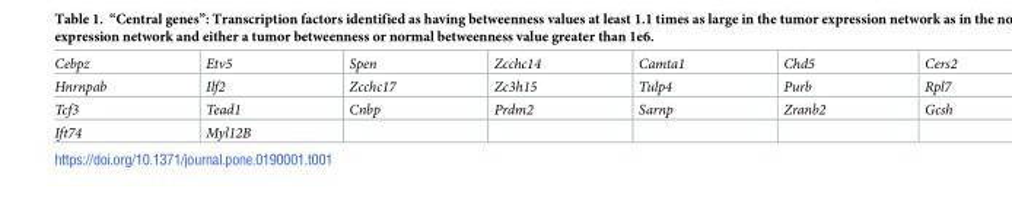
<table><tbody><tr><td>Cebpz</td><td>Etv5</td><td>Spen</td><td>Zcchc14</td><td>Camta1</td><td>Chd5</td><td>Cers2</td></tr><tr><td>Hnrnpab</td><td>Ilf2</td><td>Zcchc17</td><td>Zc3h15</td><td>Tulp4</td><td>Purb</td><td>Rpl7</td></tr><tr><td>Tcf3</td><td>Tead1</td><td>Cnbp</td><td>Prdm2</td><td>Sarnp</td><td>Zranb2</td><td>Gcsh</td></tr><tr><td>Ift74</td><td>Myl12B</td><td></td><td></td><td></td><td></td><td></td></tr></tbody></table>